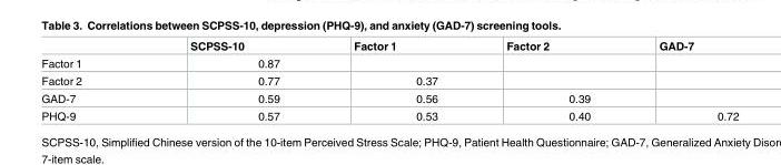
<table><thead><tr><td></td><td>SCPSS-10</td><td>Factor 1</td><td>Factor 2</td><td>GAD-7</td></tr></thead><tbody><tr><td>Factor 1</td><td>0.87</td><td></td><td></td><td></td></tr><tr><td>Factor 2</td><td>0.77</td><td>0.37</td><td></td><td></td></tr><tr><td>GAD-7</td><td>0.59</td><td>0.56</td><td>0.39</td><td></td></tr><tr><td>PHQ-9</td><td>0.57</td><td>0.53</td><td>0.40</td><td>0.72</td></tr></tbody></table>